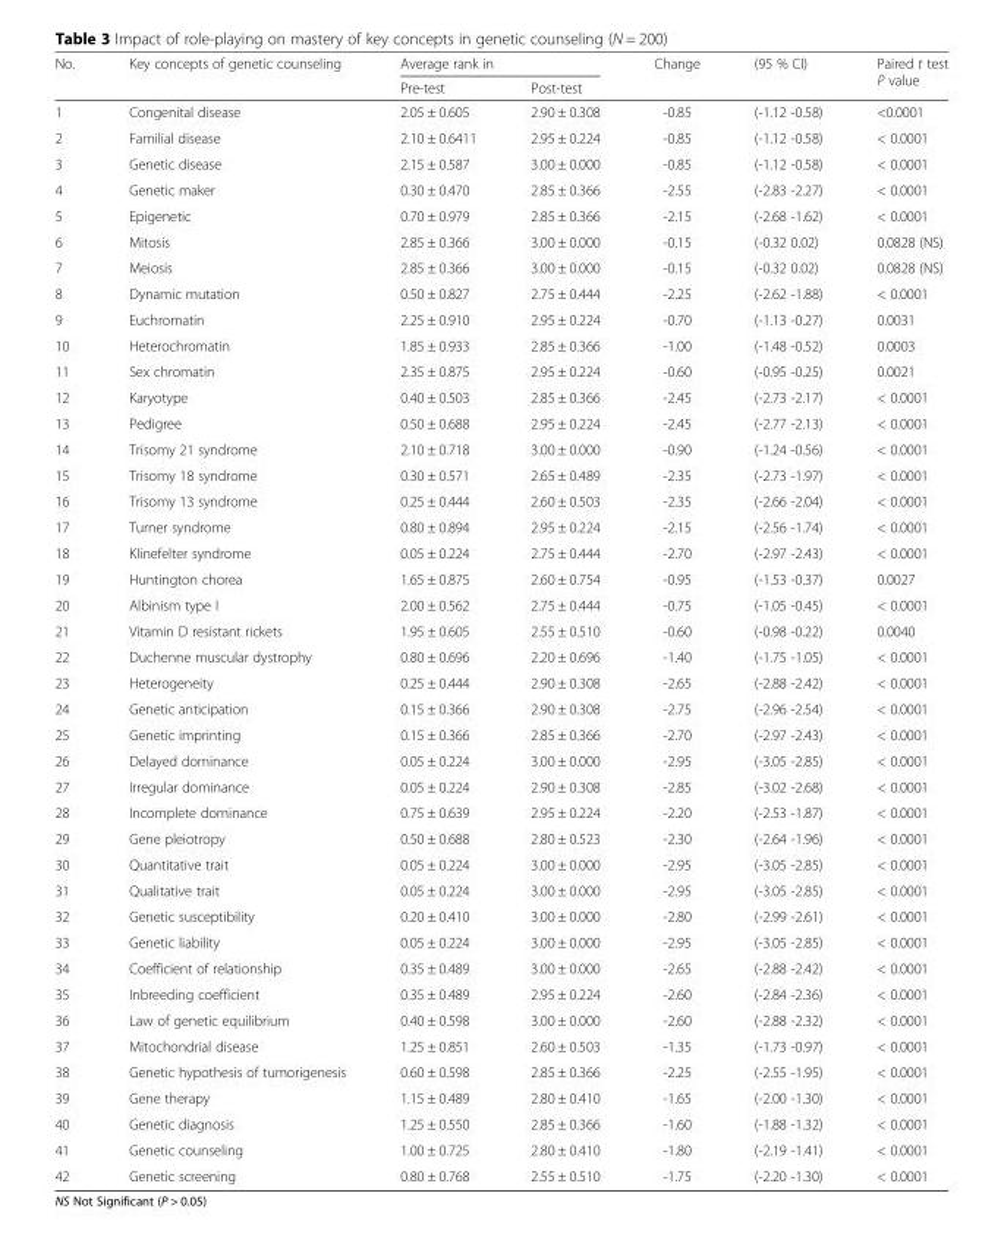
<table><thead><tr><td rowspan="2">No.</td><td rowspan="2">Key concepts of genetic counseling</td><td colspan="2">Average rank in</td><td rowspan="2">Change</td><td rowspan="2">(95 % CI)</td><td rowspan="2">Paired t test P value</td></tr><tr><td>Pre-test</td><td>Post-test</td></tr></thead><tbody><tr><td>1</td><td>Congenital disease</td><td>2.05 ± 0.605</td><td>2.90 ± 0.308</td><td>-0.85</td><td>(-1.12 -0.58)</td><td>&lt;0.0001</td></tr><tr><td>2</td><td>Familial disease</td><td>2.10 ± 0.6411</td><td>2.95 ± 0.224</td><td>-0.85</td><td>(-1.12 -0.58)</td><td>&lt; 0.0001</td></tr><tr><td>3</td><td>Genetic disease</td><td>2.15 ± 0.587</td><td>3.00 ± 0.000</td><td>-0.85</td><td>(-1.12 -0.58)</td><td>&lt; 0.0001</td></tr><tr><td>4</td><td>Genetic maker</td><td>0.30 ± 0.470</td><td>2.85 ± 0.366</td><td>-2.55</td><td>(-2.83 -2.27)</td><td>&lt; 0.0001</td></tr><tr><td>5</td><td>Epigenetic</td><td>0.70 ± 0.979</td><td>2.85 ± 0.366</td><td>-2.15</td><td>(-2.68 -1.62)</td><td>&lt; 0.0001</td></tr><tr><td>6</td><td>Mitosis</td><td>2.85 ± 0.366</td><td>3.00 ± 0.000</td><td>-0.15</td><td>(-0.32 0.02)</td><td>0.0828 (NS)</td></tr><tr><td>7</td><td>Meiosis</td><td>2.85 ± 0.366</td><td>3.00 ± 0.000</td><td>-0.15</td><td>(-0.32 0.02)</td><td>0.0828 (NS)</td></tr><tr><td>8</td><td>Dynamic mutation</td><td>0.50 ± 0.827</td><td>2.75 ± 0.444</td><td>-2.25</td><td>(-2.62 -1.88)</td><td>&lt; 0.0001</td></tr><tr><td>9</td><td>Euchromatin</td><td>2.25 ± 0.910</td><td>2.95 ± 0.224</td><td>-0.70</td><td>(-1.13 -0.27)</td><td>0.0031</td></tr><tr><td>10</td><td>Heterochromatin</td><td>1.85 ± 0.933</td><td>2.85 ± 0.366</td><td>-1.00</td><td>(-1.48 -0.52)</td><td>0.0003</td></tr><tr><td>11</td><td>Sex chromatin</td><td>2.35 ± 0.875</td><td>2.95 ± 0.224</td><td>-0.60</td><td>(-0.95 -0.25)</td><td>0.0021</td></tr><tr><td>12</td><td>Karyotype</td><td>0.40 ± 0.503</td><td>2.85 ± 0.366</td><td>-2.45</td><td>(-2.73 -2.17)</td><td>&lt; 0.0001</td></tr><tr><td>13</td><td>Pedigree</td><td>0.50 ± 0.688</td><td>2.95 ± 0.224</td><td>-2.45</td><td>(-2.77 -2.13)</td><td>&lt; 0.0001</td></tr><tr><td>14</td><td>Trisomy 21 syndrome</td><td>2.10 ± 0.718</td><td>3.00 ± 0.000</td><td>-0.90</td><td>(-1.24 -0.56)</td><td>&lt; 0.0001</td></tr><tr><td>15</td><td>Trisomy 18 syndrome</td><td>0.30 ± 0.571</td><td>2.65 ± 0.489</td><td>-2.35</td><td>(-2.73 -1.97)</td><td>&lt; 0.0001</td></tr><tr><td>16</td><td>Trisomy 13 syndrome</td><td>0.25 ± 0.444</td><td>2.60 ± 0.503</td><td>-2.35</td><td>(-2.66 -2.04)</td><td>&lt; 0.0001</td></tr><tr><td>17</td><td>Turner syndrome</td><td>0.80 ± 0.894</td><td>2.95 ± 0.224</td><td>-2.15</td><td>(-2.56 -1.74)</td><td>&lt; 0.0001</td></tr><tr><td>18</td><td>Klinefelter syndrome</td><td>0.05 ± 0.224</td><td>2.75 ± 0.444</td><td>-2.70</td><td>(-2.97 -2.43)</td><td>&lt; 0.0001</td></tr><tr><td>19</td><td>Huntington chorea</td><td>1.65 ± 0.875</td><td>2.60 ± 0.754</td><td>-0.95</td><td>(-1.53 -0.37)</td><td>0.0027</td></tr><tr><td>20</td><td>Albinism type I</td><td>2.00 ± 0.562</td><td>2.75 ± 0.444</td><td>-0.75</td><td>(-1.05 -0.45)</td><td>&lt; 0.0001</td></tr><tr><td>21</td><td>Vitamin D resistant rickets</td><td>1.95 ± 0.605</td><td>2.55 ± 0.510</td><td>-0.60</td><td>(-0.98 -0.22)</td><td>0.0040</td></tr><tr><td>22</td><td>Duchenne muscular dystrophy</td><td>0.80 ± 0.696</td><td>2.20 ± 0.696</td><td>-1.40</td><td>(-1.75 -1.05)</td><td>&lt; 0.0001</td></tr><tr><td>23</td><td>Heterogeneity</td><td>0.25 ± 0.444</td><td>2.90 ± 0.308</td><td>-2.65</td><td>(-2.88 -2.42)</td><td>&lt; 0.0001</td></tr><tr><td>24</td><td>Genetic anticipation</td><td>0.15 ± 0.366</td><td>2.90 ± 0.308</td><td>-2.75</td><td>(-2.96 -2.54)</td><td>&lt; 0.0001</td></tr><tr><td>25</td><td>Genetic imprinting</td><td>0.15 ± 0.366</td><td>2.85 ± 0.366</td><td>-2.70</td><td>(-2.97 -2.43)</td><td>&lt; 0.0001</td></tr><tr><td>26</td><td>Delayed dominance</td><td>0.05 ± 0.224</td><td>3.00 ± 0.000</td><td>-2.95</td><td>(-3.05 -2.85)</td><td>&lt; 0.0001</td></tr><tr><td>27</td><td>Irregular dominance</td><td>0.05 ± 0.224</td><td>2.90 ± 0.308</td><td>-2.85</td><td>(-3.02 -2.68)</td><td>&lt; 0.0001</td></tr><tr><td>28</td><td>Incomplete dominance</td><td>0.75 ± 0.639</td><td>2.95 ± 0.224</td><td>-2.20</td><td>(-2.53 -1.87)</td><td>&lt; 0.0001</td></tr><tr><td>29</td><td>Gene pleiotropy</td><td>0.50 ± 0.688</td><td>2.80 ± 0.523</td><td>-2.30</td><td>(-2.64 -1.96)</td><td>&lt; 0.0001</td></tr><tr><td>30</td><td>Quantitative trait</td><td>0.05 ± 0.224</td><td>3.00 ± 0.000</td><td>-2.95</td><td>(-3.05 -2.85)</td><td>&lt; 0.0001</td></tr><tr><td>31</td><td>Qualitative trait</td><td>0.05 ± 0.224</td><td>3.00 ± 0.000</td><td>-2.95</td><td>(-3.05 -2.85)</td><td>&lt; 0.0001</td></tr><tr><td>32</td><td>Genetic susceptibility</td><td>0.20 ± 0.410</td><td>3.00 ± 0.000</td><td>-2.80</td><td>(-2.99 -2.61)</td><td>&lt; 0.0001</td></tr><tr><td>33</td><td>Genetic liability</td><td>0.05 ± 0.224</td><td>3.00 ± 0.000</td><td>-2.95</td><td>(-3.05 -2.85)</td><td>&lt; 0.0001</td></tr><tr><td>34</td><td>Coefficient of relationship</td><td>0.35 ± 0.489</td><td>3.00 ± 0.000</td><td>-2.65</td><td>(-2.88 -2.42)</td><td>&lt; 0.0001</td></tr><tr><td>35</td><td>Inbreeding coefficient</td><td>0.35 ± 0.489</td><td>2.95 ± 0.224</td><td>-2.60</td><td>(-2.84 -2.36)</td><td>&lt; 0.0001</td></tr><tr><td>36</td><td>Law of genetic equilibrium</td><td>0.40 ± 0.598</td><td>3.00 ± 0.000</td><td>-2.60</td><td>(-2.88 -2.32)</td><td>&lt; 0.0001</td></tr><tr><td>37</td><td>Mitochondrial disease</td><td>1.25 ± 0.851</td><td>2.60 ± 0.503</td><td>-1.35</td><td>(-1.73 -0.97)</td><td>&lt; 0.0001</td></tr><tr><td>38</td><td>Genetic hypothesis of tumorigenesis</td><td>0.60 ± 0.598</td><td>2.85 ± 0.366</td><td>-2.25</td><td>(-2.55 -1.95)</td><td>&lt; 0.0001</td></tr><tr><td>39</td><td>Gene therapy</td><td>1.15 ± 0.489</td><td>2.80 ± 0.410</td><td>-1.65</td><td>(-2.00 -1.30)</td><td>&lt; 0.0001</td></tr><tr><td>40</td><td>Genetic diagnosis</td><td>1.25 ± 0.550</td><td>2.85 ± 0.366</td><td>-1.60</td><td>(-1.88 -1.32)</td><td>&lt; 0.0001</td></tr><tr><td>41</td><td>Genetic counseling</td><td>1.00 ± 0.725</td><td>2.80 ± 0.410</td><td>-1.80</td><td>(-2.19 -1.41)</td><td>&lt; 0.0001</td></tr><tr><td>42</td><td>Genetic screening</td><td>0.80 ± 0.768</td><td>2.55 ± 0.510</td><td>-1.75</td><td>(-2.20 -1.30)</td><td>&lt; 0.0001</td></tr></tbody></table>